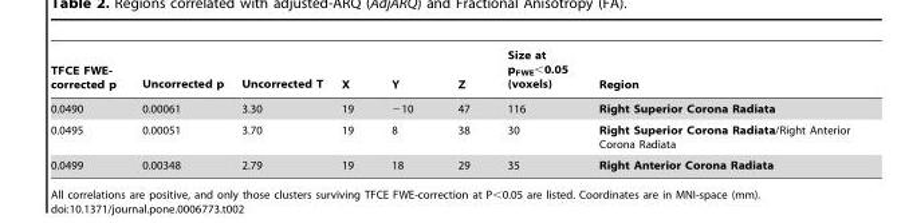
<table><thead><tr><td>TFCE FWE- corrected p</td><td>Uncorrected p</td><td>Uncorrected T</td><td>X</td><td>Y</td><td>Z</td><td>Size at p<sub>FWE</sub>&lt;0.05 (voxels)</td><td>Region</td></tr></thead><tbody><tr><td>0.0490</td><td>0.00061</td><td>3.30</td><td>19</td><td>−10</td><td>47</td><td>116</td><td>Right Superior Corona Radiata</td></tr><tr><td>0.0495</td><td>0.00051</td><td>3.70</td><td>19</td><td>8</td><td>38</td><td>30</td><td>Right Superior Corona Radiata/Right Anterior Corona Radiata</td></tr><tr><td>0.0499</td><td>0.00348</td><td>2.79</td><td>19</td><td>18</td><td>29</td><td>35</td><td>Right Anterior Corona Radiata</td></tr></tbody></table>